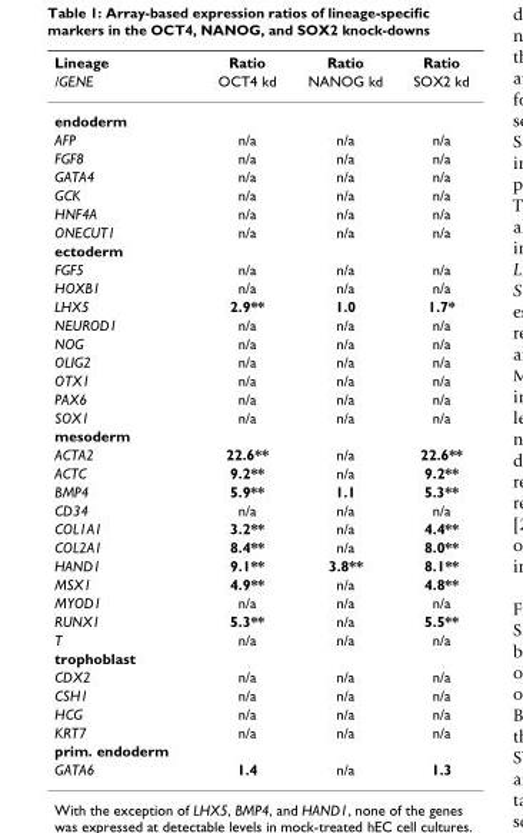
<table><thead><tr><td rowspan="2">Lineage /GENE</td><td rowspan="2">Ratio OCT4 kd</td><td rowspan="2">Ratio NANOG kd</td><td rowspan="2">Ratio SOX2 kd</td></tr><tr></tr></thead><tbody><tr><td colspan="4">endoderm</td></tr><tr><td>AFP</td><td>n/a</td><td>n/a</td><td>n/a</td></tr><tr><td>FGF8</td><td>n/a</td><td>n/a</td><td>n/a</td></tr><tr><td>GATA4</td><td>n/a</td><td>n/a</td><td>n/a</td></tr><tr><td>GCK</td><td>n/a</td><td>n/a</td><td>n/a</td></tr><tr><td>HNF4A</td><td>n/a</td><td>n/a</td><td>n/a</td></tr><tr><td>ONECUT1</td><td>n/a</td><td>n/a</td><td>n/a</td></tr><tr><td colspan="4">ectoderm</td></tr><tr><td>FGF5</td><td>n/a</td><td>n/a</td><td>n/a</td></tr><tr><td>HOXB1</td><td>n/a</td><td>n/a</td><td>n/a</td></tr><tr><td>LHX5</td><td>2.9**</td><td>1.0</td><td>1.7*</td></tr><tr><td>NEUROD1</td><td>n/a</td><td>n/a</td><td>n/a</td></tr><tr><td>NOG</td><td>n/a</td><td>n/a</td><td>n/a</td></tr><tr><td>OLIG2</td><td>n/a</td><td>n/a</td><td>n/a</td></tr><tr><td>OTX1</td><td>n/a</td><td>n/a</td><td>n/a</td></tr><tr><td>PAX6</td><td>n/a</td><td>n/a</td><td>n/a</td></tr><tr><td>SOX1</td><td>n/a</td><td>n/a</td><td>n/a</td></tr><tr><td colspan="4">mesoderm</td></tr><tr><td>ACTA2</td><td>22.6**</td><td>n/a</td><td>22.6**</td></tr><tr><td>ACTC</td><td>9.2**</td><td>n/a</td><td>9.2**</td></tr><tr><td>BMP4</td><td>5.9**</td><td>1.1</td><td>5.3**</td></tr><tr><td>CD34</td><td>n/a</td><td>n/a</td><td>n/a</td></tr><tr><td>COL1A1</td><td>3.2**</td><td>n/a</td><td>4.4**</td></tr><tr><td>COL2A1</td><td>8.4**</td><td>n/a</td><td>8.0**</td></tr><tr><td>HAND1</td><td>9.1**</td><td>3.8**</td><td>8.1**</td></tr><tr><td>MSX1</td><td>4.9**</td><td>n/a</td><td>4.8**</td></tr><tr><td>MYOD1</td><td>n/a</td><td>n/a</td><td>n/a</td></tr><tr><td>RUNX1</td><td>5.3**</td><td>n/a</td><td>5.5**</td></tr><tr><td>T</td><td>n/a</td><td>n/a</td><td>n/a</td></tr><tr><td colspan="4">trophoblast</td></tr><tr><td>CDX2</td><td>n/a</td><td>n/a</td><td>n/a</td></tr><tr><td>CSH1</td><td>n/a</td><td>n/a</td><td>n/a</td></tr><tr><td>HCG</td><td>n/a</td><td>n/a</td><td>n/a</td></tr><tr><td>KRT7</td><td>n/a</td><td>n/a</td><td>n/a</td></tr><tr><td colspan="4">prim. endoderm</td></tr><tr><td>GATA6</td><td>1.4</td><td>n/a</td><td>1.3</td></tr></tbody></table>